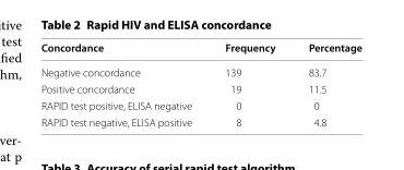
<table><thead><tr><td>Concordance</td><td>Frequency</td><td>Percentage</td></tr></thead><tbody><tr><td>Negative concordance</td><td>139</td><td>83.7</td></tr><tr><td>Positive concordance</td><td>19</td><td>11.5</td></tr><tr><td>RAPID test positive, ELISA negative</td><td>0</td><td>0</td></tr><tr><td>RAPID test negative, ELISA positive</td><td>8</td><td>4.8</td></tr></tbody></table>